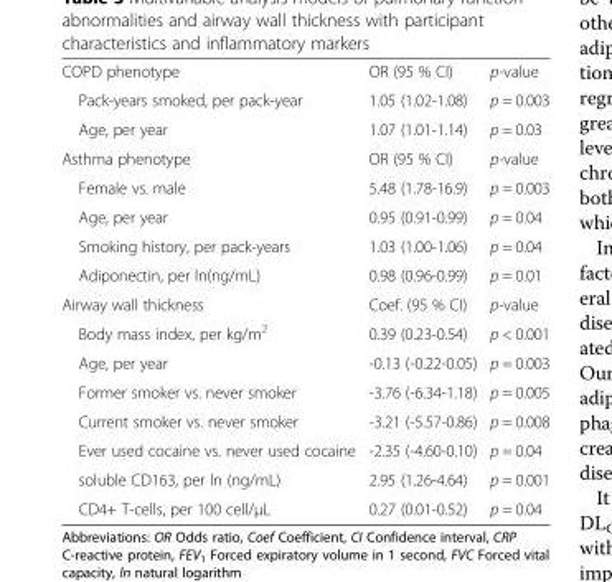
<table><tbody><tr><td>COPD phenotype</td><td>OR (95 % CI)</td><td>p-value</td></tr><tr><td>Pack-years smoked, per pack-year</td><td>1.05 (1.02-1.08)</td><td>p = 0.003</td></tr><tr><td>Age, per year</td><td>1.07 (1.01-1.14)</td><td>p = 0.03</td></tr><tr><td>Asthma phenotype</td><td>OR (95 % CI)</td><td>p-value</td></tr><tr><td>Female vs. male</td><td>5.48 (1.78-16.9)</td><td>p = 0.003</td></tr><tr><td>Age, per year</td><td>0.95 (0.91-0.99)</td><td>p = 0.04</td></tr><tr><td>Smoking history, per pack-years</td><td>1.03 (1.00-1.06)</td><td>p = 0.04</td></tr><tr><td>Adiponectin, per ln(ng/mL)</td><td>0.98 (0.96-0.99)</td><td>p = 0.01</td></tr><tr><td>Airway wall thickness</td><td>Coef. (95 % CI)</td><td>p-value</td></tr><tr><td>Body mass index, per kg/m<sup>2</sup></td><td>0.39 (0.23-0.54)</td><td>p &lt; 0.001</td></tr><tr><td>Age, per year</td><td>-0.13 (-0.22-0.05)</td><td>p = 0.003</td></tr><tr><td>Former smoker vs. never smoker</td><td>-3.76 (-6.34-1.18)</td><td>p = 0.005</td></tr><tr><td>Current smoker vs. never smoker</td><td>-3.21 (-5.57-0.86)</td><td>p = 0.008</td></tr><tr><td>Ever used cocaine vs. never used cocaine</td><td>-2.35 (-4.60-0.10)</td><td>p = 0.04</td></tr><tr><td>soluble CD163, per ln (ng/mL)</td><td>2.95 (1.26-4.64)</td><td>p = 0.001</td></tr><tr><td>CD4+ T-cells, per 100 cell/μL</td><td>0.27 (0.01-0.52)</td><td>p = 0.04</td></tr></tbody></table>